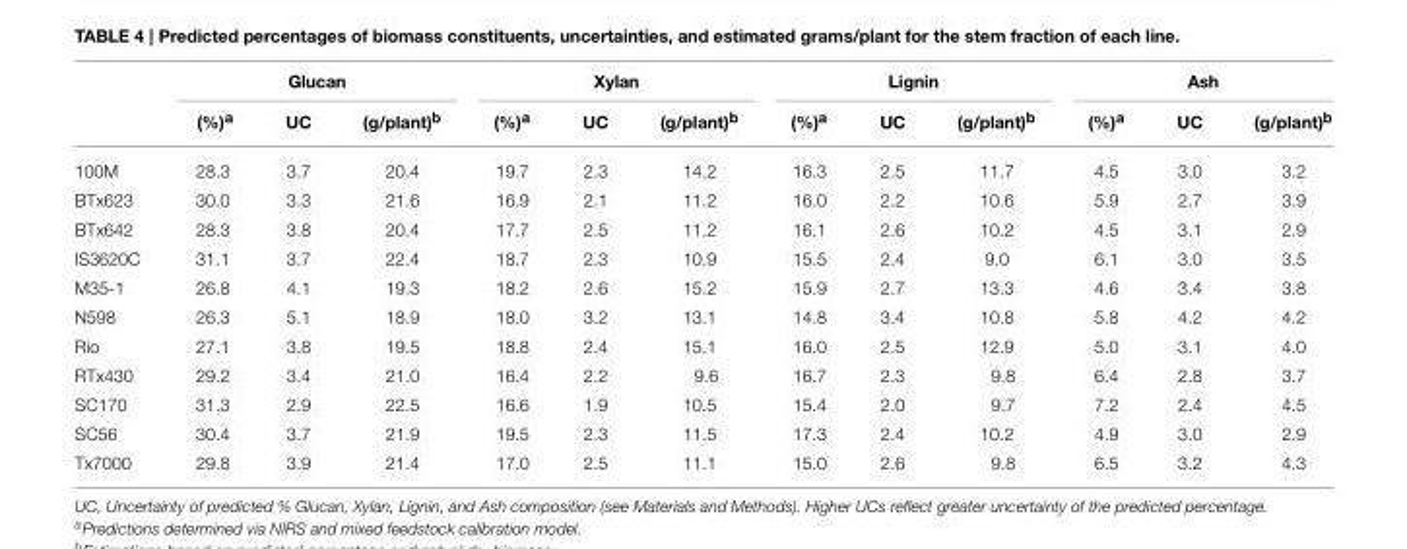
<table><thead><tr><td rowspan="2"></td><td colspan="3">Glucan</td><td colspan="3">Xylan</td><td colspan="3">Lignin</td><td colspan="3">Ash</td></tr><tr><td>(%)<sup>a</sup></td><td>UC</td><td>(g/plant)<sup>b</sup></td><td>(%)<sup>a</sup></td><td>UC</td><td>(g/plant)<sup>b</sup></td><td>(%)<sup>a</sup></td><td>UC</td><td>(g/plant)<sup>b</sup></td><td>(%)<sup>a</sup></td><td>UC</td><td>(g/plant)<sup>b</sup></td></tr></thead><tbody><tr><td>100M</td><td>28.3</td><td>3.7</td><td>20.4</td><td>19.7</td><td>2.3</td><td>14.2</td><td>16.3</td><td>2.5</td><td>11.7</td><td>4.5</td><td>3.0</td><td>3.2</td></tr><tr><td>BTx623</td><td>30.0</td><td>3.3</td><td>21.6</td><td>16.9</td><td>2.1</td><td>11.2</td><td>16.0</td><td>2.2</td><td>10.6</td><td>5.9</td><td>2.7</td><td>3.9</td></tr><tr><td>BTx642</td><td>28.3</td><td>3.8</td><td>20.4</td><td>17.7</td><td>2.5</td><td>11.2</td><td>16.1</td><td>2.6</td><td>10.2</td><td>4.5</td><td>3.1</td><td>2.9</td></tr><tr><td>IS3620C</td><td>31.1</td><td>3.7</td><td>22.4</td><td>18.7</td><td>2.3</td><td>10.9</td><td>15.5</td><td>2.4</td><td>9.0</td><td>6.1</td><td>3.0</td><td>3.5</td></tr><tr><td>M35-1</td><td>26.8</td><td>4.1</td><td>19.3</td><td>18.2</td><td>2.6</td><td>15.2</td><td>15.9</td><td>2.7</td><td>13.3</td><td>4.6</td><td>3.4</td><td>3.8</td></tr><tr><td>N598</td><td>26.3</td><td>5.1</td><td>18.9</td><td>18.0</td><td>3.2</td><td>13.1</td><td>14.8</td><td>3.4</td><td>10.8</td><td>5.8</td><td>4.2</td><td>4.2</td></tr><tr><td>Rio</td><td>27.1</td><td>3.8</td><td>19.5</td><td>18.8</td><td>2.4</td><td>15.1</td><td>16.0</td><td>2.5</td><td>12.9</td><td>5.0</td><td>3.1</td><td>4.0</td></tr><tr><td>RTx430</td><td>29.2</td><td>3.4</td><td>21.0</td><td>16.4</td><td>2.2</td><td>9.6</td><td>16.7</td><td>2.3</td><td>9.8</td><td>6.4</td><td>2.8</td><td>3.7</td></tr><tr><td>SC170</td><td>31.3</td><td>2.9</td><td>22.5</td><td>16.6</td><td>1.9</td><td>10.5</td><td>15.4</td><td>2.0</td><td>9.7</td><td>7.2</td><td>2.4</td><td>4.5</td></tr><tr><td>SC56</td><td>30.4</td><td>3.7</td><td>21.9</td><td>19.5</td><td>2.3</td><td>11.5</td><td>17.3</td><td>2.4</td><td>10.2</td><td>4.9</td><td>3.0</td><td>2.9</td></tr><tr><td>Tx7000</td><td>29.8</td><td>3.9</td><td>21.4</td><td>17.0</td><td>2.5</td><td>11.1</td><td>15.0</td><td>2.6</td><td>9.8</td><td>6.5</td><td>3.2</td><td>4.3</td></tr></tbody></table>